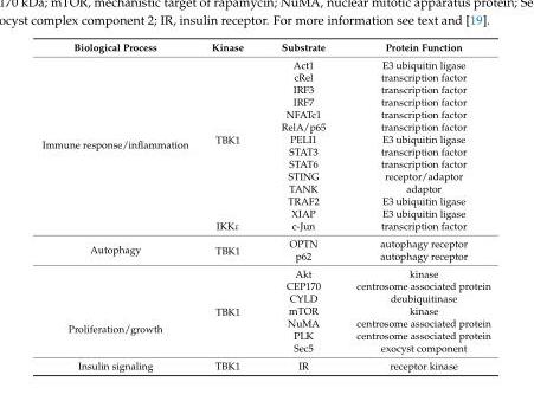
<table><thead><tr><td>Biological Process</td><td>Kinase</td><td>Substrate</td><td>Protein Function</td></tr></thead><tbody><tr><td rowspan="14">Immune response/inflammation</td><td rowspan="13">TBK1</td><td>Act1</td><td>E3 ubiquitin ligase</td></tr><tr><td>cRel</td><td>transcription factor</td></tr><tr><td>IRF3</td><td>transcription factor</td></tr><tr><td>IRF7</td><td>transcription factor</td></tr><tr><td>NFATc1</td><td>transcription factor</td></tr><tr><td>RelA/p65</td><td>transcription factor</td></tr><tr><td>PELI1</td><td>E3 ubiquitin ligase</td></tr><tr><td>STAT3</td><td>transcription factor</td></tr><tr><td>STAT6</td><td>transcription factor</td></tr><tr><td>STING</td><td>receptor/adaptor</td></tr><tr><td>TANK</td><td>adaptor</td></tr><tr><td>TRAF2</td><td>E3 ubiquitin ligase</td></tr><tr><td>XIAP</td><td>E3 ubiquitin ligase</td></tr><tr><td>IKKε</td><td>c-Jun</td><td>transcription factor</td></tr><tr><td rowspan="2">Autophagy</td><td rowspan="2">TBK1</td><td>OPTN</td><td>autophagy receptor</td></tr><tr><td>p62</td><td>autophagy receptor</td></tr><tr><td rowspan="7">Proliferation/growth</td><td rowspan="7">TBK1</td><td>Akt</td><td>kinase</td></tr><tr><td>CEP170</td><td>centrosome associated protein</td></tr><tr><td>CYLD</td><td>deubiquitinase</td></tr><tr><td>mTOR</td><td>kinase</td></tr><tr><td>NuMA</td><td>centrosome associated protein</td></tr><tr><td>PLK</td><td>centrosome associated protein</td></tr><tr><td>Sec5</td><td>exocyst component</td></tr><tr><td>Insulin signaling</td><td>TBK1</td><td>IR</td><td>receptor kinase</td></tr></tbody></table>